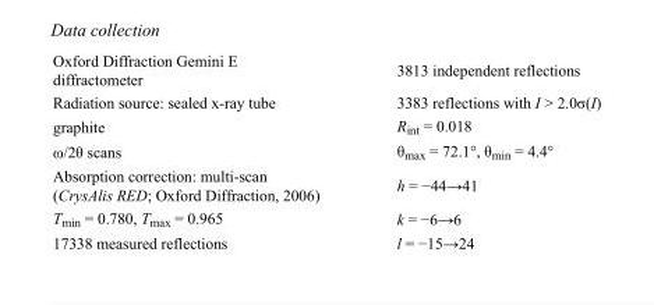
<table><tbody><tr><td>Oxford Diffraction Gemini E diffractometer</td><td>3813 independent reflections</td></tr><tr><td>Radiation source: sealed x-ray tube</td><td>3383 reflections with I &gt; 2.0σ(I)</td></tr><tr><td>graphite</td><td>R<sub>int</sub> = 0.018</td></tr><tr><td>ω/2θ scans</td><td>θ<sub>max</sub> = 72.1°, θ<sub>min</sub> = 4.4°</td></tr><tr><td>Absorption correction: multi-scan (CrysAlis RED; Oxford Diffraction, 2006)</td><td>h = −44→41</td></tr><tr><td>T<sub>min</sub> = 0.780, T<sub>max</sub> = 0.965</td><td>k = −6→6</td></tr><tr><td>17338 measured reflections</td><td>l = −15→24</td></tr></tbody></table>